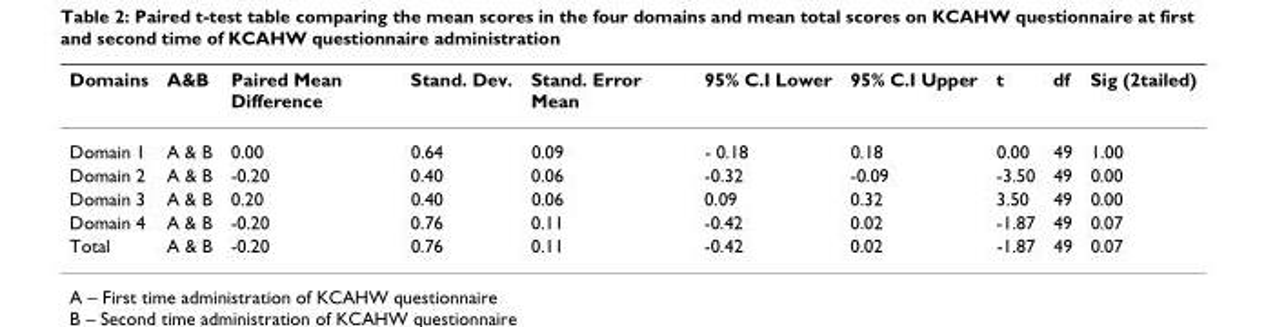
<table><thead><tr><td>Domains</td><td>A&amp;B</td><td>Paired Mean Difference</td><td>Stand. Dev.</td><td>Stand. Error Mean</td><td>95% C.I Lower</td><td>95% C.I Upper</td><td>t</td><td>df</td><td>Sig (2tailed)</td></tr></thead><tbody><tr><td>Domain 1</td><td>A &amp; B</td><td>0.00</td><td>0.64</td><td>0.09</td><td>- 0.18</td><td>0.18</td><td>0.00</td><td>49</td><td>1.00</td></tr><tr><td>Domain 2</td><td>A &amp; B</td><td>-0.20</td><td>0.40</td><td>0.06</td><td>-0.32</td><td>-0.09</td><td>-3.50</td><td>49</td><td>0.00</td></tr><tr><td>Domain 3</td><td>A &amp; B</td><td>0.20</td><td>0.40</td><td>0.06</td><td>0.09</td><td>0.32</td><td>3.50</td><td>49</td><td>0.00</td></tr><tr><td>Domain 4</td><td>A &amp; B</td><td>-0.20</td><td>0.76</td><td>0.11</td><td>-0.42</td><td>0.02</td><td>-1.87</td><td>49</td><td>0.07</td></tr><tr><td>Total</td><td>A &amp; B</td><td>-0.20</td><td>0.76</td><td>0.11</td><td>-0.42</td><td>0.02</td><td>-1.87</td><td>49</td><td>0.07</td></tr></tbody></table>